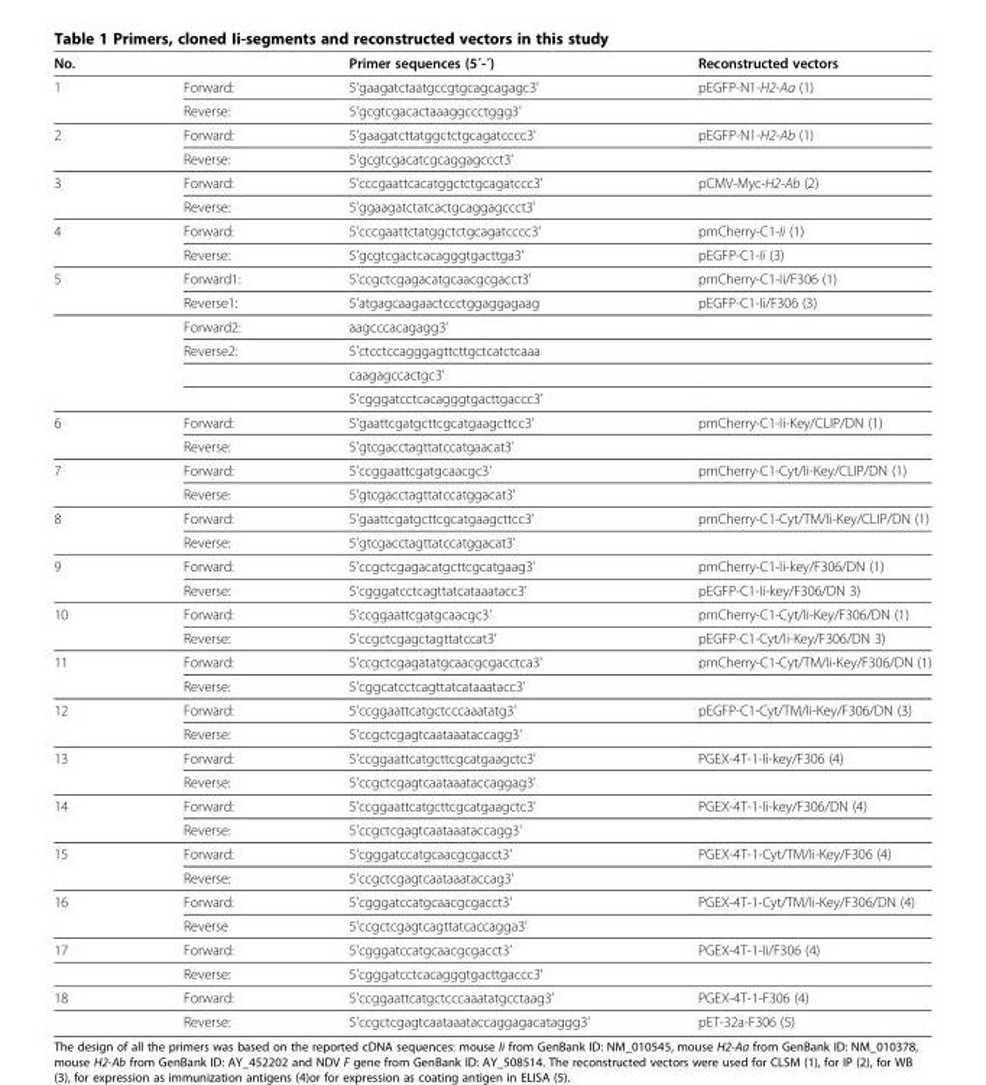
<table><thead><tr><td>No.</td><td></td><td>Primer sequences (5´-´)</td><td>Reconstructed vectors</td></tr></thead><tbody><tr><td rowspan="2">1</td><td>Forward:</td><td>5&#x27;gaagatctaatgccgtgcagcagagc3&#x27;</td><td>pEGFP-N1-H2-Aa (1)</td></tr><tr><td>Reverse:</td><td>5&#x27;gcgtcgacactaaaggccctggg3&#x27;</td><td></td></tr><tr><td rowspan="2">2</td><td>Forward:</td><td>5&#x27;gaagatcttatggctctgcagatcccc3&#x27;</td><td>pEGFP-N1-H2-Ab (1)</td></tr><tr><td>Reverse:</td><td>5&#x27;gcgtcgacatcgcaggagccct3&#x27;</td><td></td></tr><tr><td rowspan="2">3</td><td>Forward:</td><td>5&#x27;cccgaattcacatggctctgcagatccc3&#x27;</td><td>pCMV-Myc-H2-Ab (2)</td></tr><tr><td>Reverse:</td><td>5&#x27;ggaagatctatcactgcaggagccct3&#x27;</td><td></td></tr><tr><td rowspan="2">4</td><td>Forward:</td><td>5&#x27;cccgaattctatggctctgcagatcccc3&#x27;</td><td>pmCherry-C1-Ii (1)</td></tr><tr><td>Reverse:</td><td>5&#x27;gcgtcgactcacagggtgacttga3&#x27;</td><td>pEGFP-C1-Ii (3)</td></tr><tr><td rowspan="6">5</td><td>Forward1:</td><td>5&#x27;ccgctcgagacatgcaacgcgacct3&#x27;</td><td>pmCherry-C1-Ii/F306 (1)</td></tr><tr><td>Reverse1:</td><td>5&#x27;atgagcaagaactccctggaggagaag</td><td>pEGFP-C1-Ii/F306 (3)</td></tr><tr><td>Forward2:</td><td>aagcccacagagg3&#x27;</td><td></td></tr><tr><td>Reverse2:</td><td>5&#x27;ctcctccagggagttcttgctcatctcaaa</td><td></td></tr><tr><td></td><td>caagagccactgc3&#x27;</td><td></td></tr><tr><td></td><td>5&#x27;cgggatcctcacagggtgacttgaccc3&#x27;</td><td></td></tr><tr><td rowspan="2">6</td><td>Forward:</td><td>5&#x27;gaattcgatgcttcgcatgaagcttcc3&#x27;</td><td>pmCherry-C1-Ii-Key/CLIP/DN (1)</td></tr><tr><td>Reverse:</td><td>5&#x27;gtcgacctagttatccatgaacat3&#x27;</td><td></td></tr><tr><td rowspan="2">7</td><td>Forward:</td><td>5&#x27;ccggaattcgatgcaacgc3&#x27;</td><td>pmCherry-C1-Cyt/Ii-Key/CLIP/DN (1)</td></tr><tr><td>Reverse:</td><td>5&#x27;gtcgacctagttatccatggacat3&#x27;</td><td></td></tr><tr><td rowspan="2">8</td><td>Forward:</td><td>5&#x27;gaattcgatgcttcgcatgaagcttcc3&#x27;</td><td>pmCherry-C1-Cyt/TM/Ii-Key/CLIP/DN (1)</td></tr><tr><td>Reverse:</td><td>5&#x27;gtcgacctagttatccatggacat3&#x27;</td><td></td></tr><tr><td rowspan="2">9</td><td>Forward:</td><td>5&#x27;ccgctcgagacatgcttcgcatgaag3&#x27;</td><td>pmCherry-C1-Ii-key/F306/DN (1)</td></tr><tr><td>Reverse:</td><td>5&#x27;cgggatcctcagttatcataaatacc3&#x27;</td><td>pEGFP-C1-Ii-key/F306/DN 3)</td></tr><tr><td rowspan="2">10</td><td>Forward:</td><td>5&#x27;ccggaattcgatgcaacgc3&#x27;</td><td>pmCherry-C1-Cyt/Ii-Key/F306/DN (1)</td></tr><tr><td>Reverse:</td><td>5&#x27;ccgctcgagctagttatccat3&#x27;</td><td>pEGFP-C1-Cyt/Ii-Key/F306/DN 3)</td></tr><tr><td rowspan="2">11</td><td>Forward:</td><td>5&#x27;ccgctcgagatatgcaacgcgacctca3&#x27;</td><td>pmCherry-C1-Cyt/TM/Ii-Key/F306/DN (1)</td></tr><tr><td>Reverse:</td><td>5&#x27;cggcatcctcagttatcataaatacc3&#x27;</td><td></td></tr><tr><td rowspan="2">12</td><td>Forward:</td><td>5&#x27;ccggaattcatgctcccaaatatg3&#x27;</td><td>pEGFP-C1-Cyt/TM/Ii-Key/F306/DN (3)</td></tr><tr><td>Reverse:</td><td>5&#x27;ccgctcgagtcaataaataccagg3&#x27;</td><td></td></tr><tr><td rowspan="2">13</td><td>Forward:</td><td>5&#x27;ccggaattcatgcttcgcatgaagctc3&#x27;</td><td>PGEX-4T-1-Ii-key/F306 (4)</td></tr><tr><td>Reverse:</td><td>5&#x27;ccgctcgagtcaataaataccaggag3&#x27;</td><td></td></tr><tr><td rowspan="2">14</td><td>Forward:</td><td>5&#x27;ccggaattcatgcttcgcatgaagctc3&#x27;</td><td>PGEX-4T-1-Ii-key/F306/DN (4)</td></tr><tr><td>Reverse:</td><td>5&#x27;ccgctcgagtcaataaataccagg3&#x27;</td><td></td></tr><tr><td rowspan="2">15</td><td>Forward:</td><td>5&#x27;cgggatccatgcaacgcgacct3&#x27;</td><td>PGEX-4T-1-Cyt/TM/Ii-Key/F306 (4)</td></tr><tr><td>Reverse:</td><td>5&#x27;ccgctcgagtcaataaataccag3&#x27;</td><td></td></tr><tr><td rowspan="2">16</td><td>Forward:</td><td>5&#x27;cgggatccatgcaacgcgacct3&#x27;</td><td>PGEX-4T-1-Cyt/TM/Ii-Key/F306/DN (4)</td></tr><tr><td>Reverse</td><td>5&#x27;ccgctcgagtcagttatcaccagga3&#x27;</td><td></td></tr><tr><td rowspan="2">17</td><td>Forward:</td><td>5&#x27;cgggatccatgcaacgcgacct3&#x27;</td><td>PGEX-4T-1-Ii/F306 (4)</td></tr><tr><td>Reverse:</td><td>5&#x27;cgggatcctcacagggtgacttgaccc3&#x27;</td><td></td></tr><tr><td rowspan="2">18</td><td>Forward:</td><td>5&#x27;ccggaattcatgctcccaaatatgcctaag3&#x27;</td><td>PGEX-4T-1-F306 (4)</td></tr><tr><td>Reverse:</td><td>5&#x27;ccgctcgagtcaataaataccaggagacataggg3&#x27;</td><td>pET-32a-F306 (5)</td></tr></tbody></table>